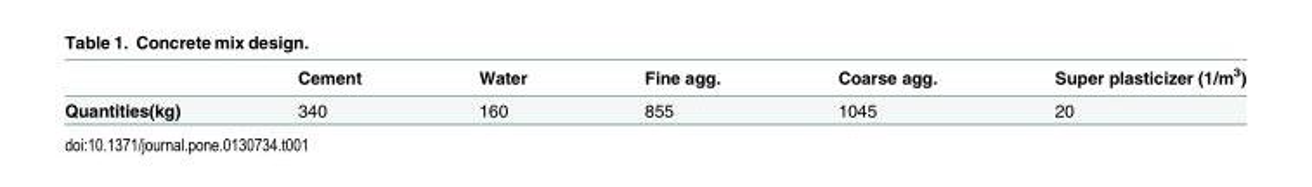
<table><thead><tr><td></td><td>Cement</td><td>Water</td><td>Fine agg.</td><td>Coarse agg.</td><td>Super plasticizer (1/m<sup>3</sup>)</td></tr></thead><tbody><tr><td>Quantities(kg)</td><td>340</td><td>160</td><td>855</td><td>1045</td><td>20</td></tr></tbody></table>